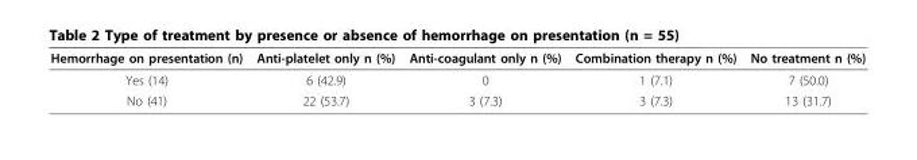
<table><thead><tr><td>Hemorrhage on presentation (n)</td><td>Anti-platelet only n (%)</td><td>Anti-coagulant only n (%)</td><td>Combination therapy n (%)</td><td>No treatment n (%)</td></tr></thead><tbody><tr><td>Yes (14)</td><td>6 (42.9)</td><td>0</td><td>1 (7.1)</td><td>7 (50.0)</td></tr><tr><td>No (41)</td><td>22 (53.7)</td><td>3 (7.3)</td><td>3 (7.3)</td><td>13 (31.7)</td></tr></tbody></table>